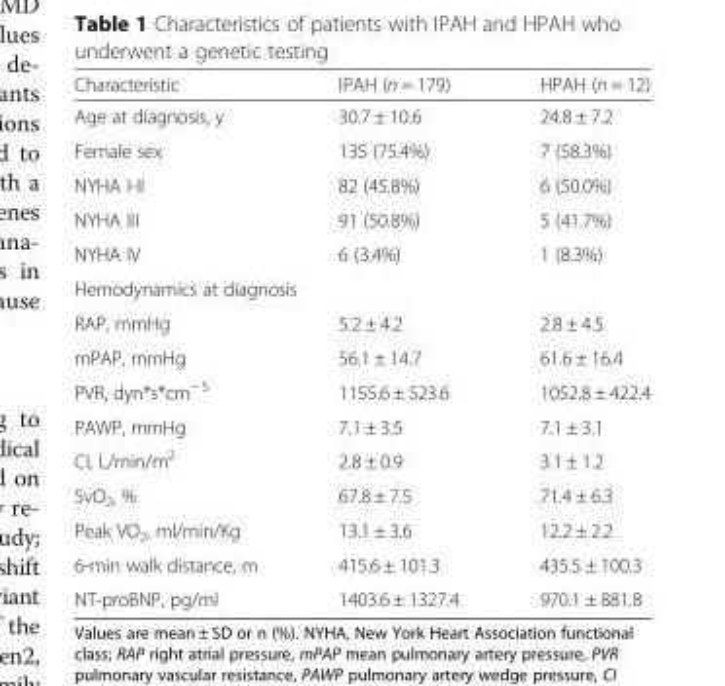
<table><thead><tr><td>Characteristic</td><td>IPAH (n = 179)</td><td>HPAH (n = 12)</td></tr></thead><tbody><tr><td>Age at diagnosis, y</td><td>30.7 ± 10.6</td><td>24.8 ± 7.2</td></tr><tr><td>Female sex</td><td>135 (75.4%)</td><td>7 (58.3%)</td></tr><tr><td>NYHA I-II</td><td>82 (45.8%)</td><td>6 (50.0%)</td></tr><tr><td>NYHA III</td><td>91 (50.8%)</td><td>5 (41.7%)</td></tr><tr><td>NYHA IV</td><td>6 (3.4%)</td><td>1 (8.3%)</td></tr><tr><td colspan="3">Hemodynamics at diagnosis</td></tr><tr><td>RAP, mmHg</td><td>5.2 ± 4.2</td><td>2.8 ± 4.5</td></tr><tr><td>mPAP, mmHg</td><td>56.1 ± 14.7</td><td>61.6 ± 16.4</td></tr><tr><td>PVR, dyn*s*cm<sup>− 5</sup></td><td>1155.6 ± 523.6</td><td>1052.8 ± 422.4</td></tr><tr><td>PAWP, mmHg</td><td>7.1 ± 3.5</td><td>7.1 ± 3.1</td></tr><tr><td>CI, L/min/m<sup>2</sup></td><td>2.8 ± 0.9</td><td>3.1 ± 1.2</td></tr><tr><td>SvO<sub>2</sub>, %</td><td>67.8 ± 7.5</td><td>71.4 ± 6.3</td></tr><tr><td>Peak VO<sub>2</sub>, ml/min/Kg</td><td>13.1 ± 3.6</td><td>12.2 ± 2.2</td></tr><tr><td>6-min walk distance, m</td><td>415.6 ± 101.3</td><td>435.5 ± 100.3</td></tr><tr><td>NT-proBNP, pg/ml</td><td>1403.6 ± 1327.4</td><td>970.1 ± 881.8</td></tr></tbody></table>